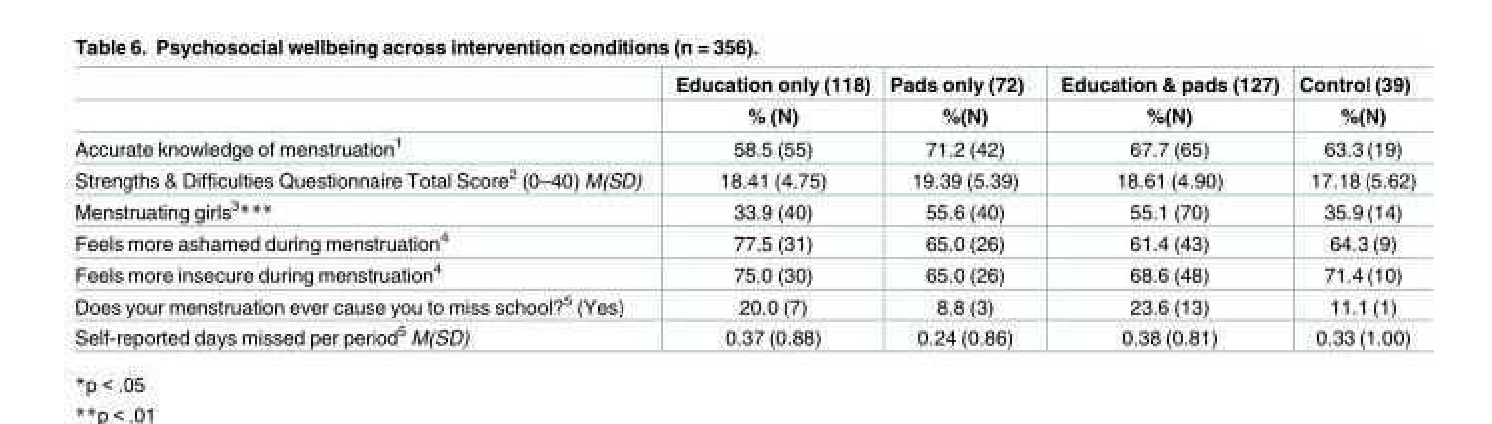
<table><thead><tr><td rowspan="2"></td><td rowspan="2">Education only (118) % (N)</td><td rowspan="2">Pads only (72) %(N)</td><td rowspan="2">Education &amp; pads (127) %(N)</td><td rowspan="2">Control (39) %(N)</td></tr><tr></tr></thead><tbody><tr><td>Accurate knowledge of menstruation<sup>1</sup></td><td>58.5 (55)</td><td>71.2 (42)</td><td>67.7 (65)</td><td>63.3 (19)</td></tr><tr><td>Strengths &amp; Difficulties Questionnaire Total Score<sup>2</sup> (0–40) M(SD)</td><td>18.41 (4.75)</td><td>19.39 (5.39)</td><td>18.61 (4.90)</td><td>17.18 (5.62)</td></tr><tr><td>Menstruating girls<sup>3</sup>***</td><td>33.9 (40)</td><td>55.6 (40)</td><td>55.1 (70)</td><td>35.9 (14)</td></tr><tr><td>Feels more ashamed during menstruation<sup>4</sup></td><td>77.5 (31)</td><td>65.0 (26)</td><td>61.4 (43)</td><td>64.3 (9)</td></tr><tr><td>Feels more insecure during menstruation<sup>4</sup></td><td>75.0 (30)</td><td>65.0 (26)</td><td>68.6 (48)</td><td>71.4 (10)</td></tr><tr><td>Does your menstruation ever cause you to miss school?<sup>5</sup> (Yes)</td><td>20.0 (7)</td><td>8.8 (3)</td><td>23.6 (13)</td><td>11.1 (1)</td></tr><tr><td>Self-reported days missed per period<sup>5</sup> M(SD)</td><td>0.37 (0.88)</td><td>0.24 (0.86)</td><td>0.38 (0.81)</td><td>0.33 (1.00)</td></tr></tbody></table>